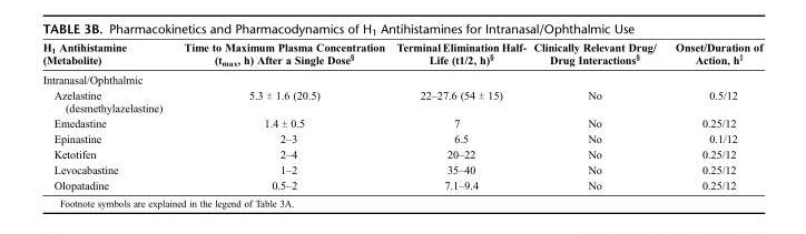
<table><thead><tr><td>H<sub>1</sub> Antihistamine (Metabolite)</td><td>Time to Maximum Plasma Concentration (t<sub>max</sub>, h) After a Single Dose<sup>§</sup></td><td>Terminal Elimination Half- Life (t1/2, h)<sup>§</sup></td><td>Clinically Relevant Drug/ Drug Interactions<sup>§</sup></td><td>Onset/Duration of Action, h<sup>||</sup></td></tr></thead><tbody><tr><td colspan="5">Intranasal/Ophthalmic</td></tr><tr><td>Azelastine (desmethylazelastine)</td><td>5.3 ± 1.6 (20.5)</td><td>22Y27.6 (54 T 15)</td><td>No</td><td>0.5/12</td></tr><tr><td>Emedastine</td><td>1.4 ± 0.5</td><td>7</td><td>No</td><td>0.25/12</td></tr><tr><td>Epinastine</td><td>2Y3</td><td>6.5</td><td>No</td><td>0.1/12</td></tr><tr><td>Ketotifen</td><td>2Y4</td><td>20Y22</td><td>No</td><td>0.25/12</td></tr><tr><td>Levocabastine</td><td>1Y2</td><td>35Y40</td><td>No</td><td>0.25/12</td></tr><tr><td>Olopatadine</td><td>0.5Y2</td><td>7.1Y9.4</td><td>No</td><td>0.25/12</td></tr></tbody></table>